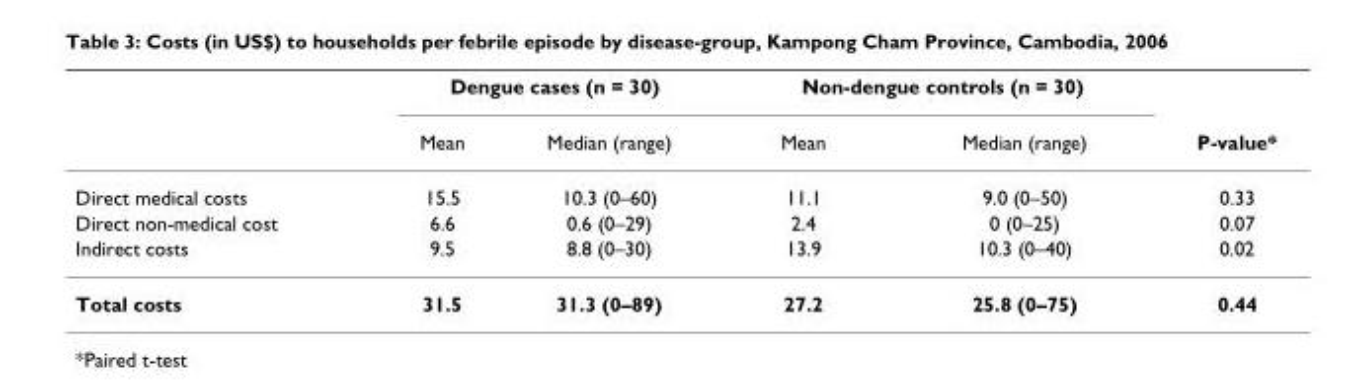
<table><thead><tr><td rowspan="2"></td><td colspan="2">Dengue cases (n = 30)</td><td colspan="2">Non-dengue controls (n = 30)</td><td rowspan="2">P-value*</td></tr><tr><td>Mean</td><td>Median (range)</td><td>Mean</td><td>Median (range)</td></tr></thead><tbody><tr><td>Direct medical costs</td><td>15.5</td><td>10.3 (0–60)</td><td>11.1</td><td>9.0 (0–50)</td><td>0.33</td></tr><tr><td>Direct non-medical cost</td><td>6.6</td><td>0.6 (0–29)</td><td>2.4</td><td>0 (0–25)</td><td>0.07</td></tr><tr><td>Indirect costs</td><td>9.5</td><td>8.8 (0–30)</td><td>13.9</td><td>10.3 (0–40)</td><td>0.02</td></tr><tr><td>Total costs</td><td>31.5</td><td>31.3 (0–89)</td><td>27.2</td><td>25.8 (0–75)</td><td>0.44</td></tr></tbody></table>